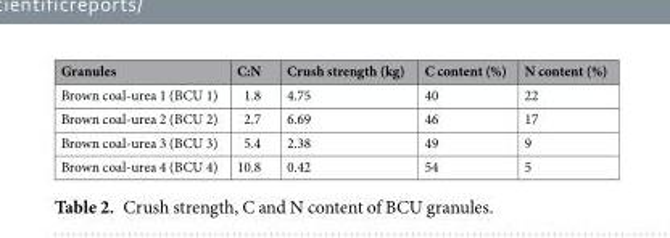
<table><thead><tr><td>Granules</td><td>C:N</td><td>Crush strength (kg)</td><td>C content (%)</td><td>N content (%)</td></tr></thead><tbody><tr><td>Brown coal-urea 1 (BCU 1)</td><td>1.8</td><td>4.75</td><td>40</td><td>22</td></tr><tr><td>Brown coal-urea 2 (BCU 2)</td><td>2.7</td><td>6.69</td><td>46</td><td>17</td></tr><tr><td>Brown coal-urea 3 (BCU 3)</td><td>5.4</td><td>2.38</td><td>49</td><td>9</td></tr><tr><td>Brown coal-urea 4 (BCU 4)</td><td>10.8</td><td>0.42</td><td>54</td><td>5</td></tr></tbody></table>